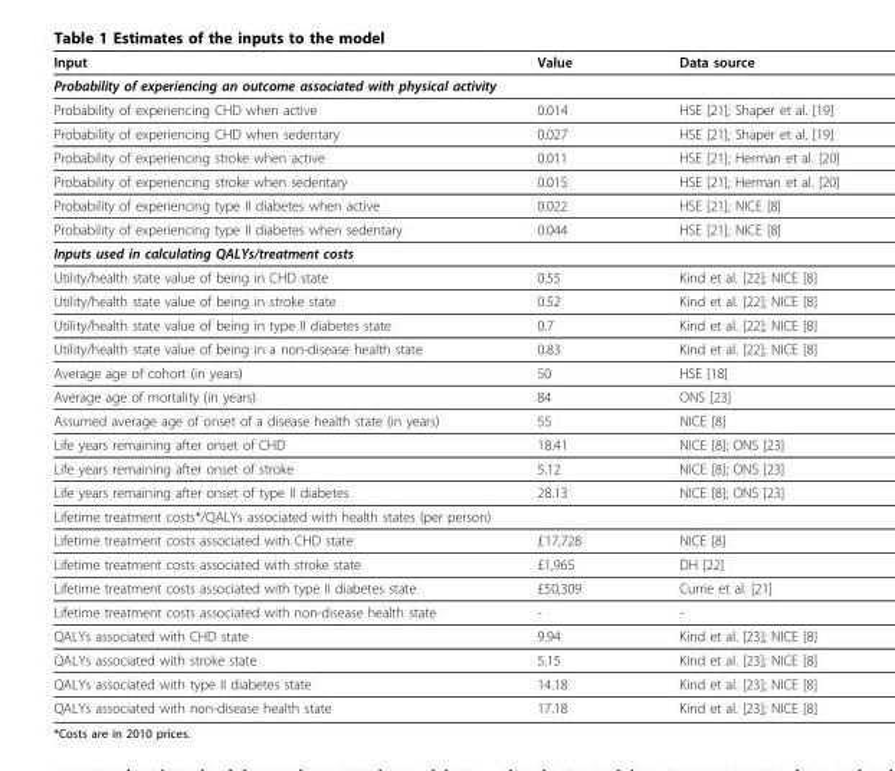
<table><thead><tr><td>Input</td><td>Value</td><td>Data source</td></tr></thead><tbody><tr><td colspan="3">Probability of experiencing an outcome associated with physical activity</td></tr><tr><td>Probability of experiencing CHD when active</td><td>0.014</td><td>HSE [21]; Shaper et al. [19]</td></tr><tr><td>Probability of experiencing CHD when sedentary</td><td>0.027</td><td>HSE [21]; Shaper et al. [19]</td></tr><tr><td>Probability of experiencing stroke when active</td><td>0.011</td><td>HSE [21]; Herman et al. [20]</td></tr><tr><td>Probability of experiencing stroke when sedentary</td><td>0.015</td><td>HSE [21]; Herman et al. [20]</td></tr><tr><td>Probability of experiencing type II diabetes when active</td><td>0.022</td><td>HSE [21]; NICE [8]</td></tr><tr><td>Probability of experiencing type II diabetes when sedentary</td><td>0.044</td><td>HSE [21]; NICE [8]</td></tr><tr><td colspan="3">Inputs used in calculating QALYs/treatment costs</td></tr><tr><td>Utility/health state value of being in CHD state</td><td>0.55</td><td>Kind et al. [22]; NICE [8]</td></tr><tr><td>Utility/health state value of being in stroke state</td><td>0.52</td><td>Kind et al. [22]; NICE [8]</td></tr><tr><td>Utility/health state value of being in type II diabetes state</td><td>0.7</td><td>Kind et al. [22]; NICE [8]</td></tr><tr><td>Utility/health state value of being in a non-disease health state</td><td>0.83</td><td>Kind et al. [22]; NICE [8]</td></tr><tr><td>Average age of cohort (in years)</td><td>50</td><td>HSE [18]</td></tr><tr><td>Average age of mortality (in years)</td><td>84</td><td>ONS [23]</td></tr><tr><td>Assumed average age of onset of a disease health state (in years)</td><td>55</td><td>NICE [8]</td></tr><tr><td>Life years remaining after onset of CHD</td><td>18.41</td><td>NICE [8]; ONS [23]</td></tr><tr><td>Life years remaining after onset of stroke</td><td>5.12</td><td>NICE [8]; ONS [23]</td></tr><tr><td>Life years remaining after onset of type II diabetes</td><td>28.13</td><td>NICE [8]; ONS [23]</td></tr><tr><td colspan="3">Lifetime treatment costs*/QALYs associated with health states (per person)</td></tr><tr><td>Lifetime treatment costs associated with CHD state</td><td>£17,728</td><td>NICE [8]</td></tr><tr><td>Lifetime treatment costs associated with stroke state</td><td>£1,965</td><td>DH [22]</td></tr><tr><td>Lifetime treatment costs associated with type II diabetes state</td><td>£50,309</td><td>Currie et al. [21]</td></tr><tr><td>Lifetime treatment costs associated with non-disease health state</td><td>-</td><td>-</td></tr><tr><td>QALYs associated with CHD state</td><td>9.94</td><td>Kind et al. [23]; NICE [8]</td></tr><tr><td>QALYs associated with stroke state</td><td>5.15</td><td>Kind et al. [23]; NICE [8]</td></tr><tr><td>QALYs associated with type II diabetes state</td><td>14.18</td><td>Kind et al. [23]; NICE [8]</td></tr><tr><td>QALYs associated with non-disease health state</td><td>17.18</td><td>Kind et al. [23]; NICE [8]</td></tr></tbody></table>